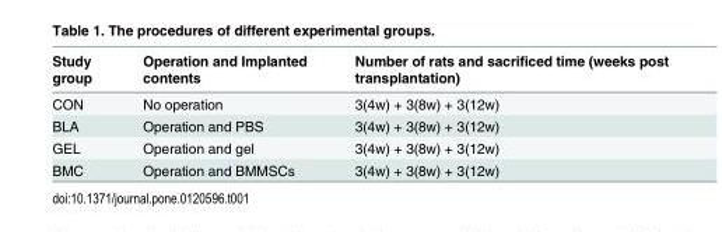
<table><thead><tr><td>Study group</td><td>Operation and Implanted contents</td><td>Number of rats and sacrificed time (weeks post transplantation)</td></tr></thead><tbody><tr><td>CON</td><td>No operation</td><td>3(4w) + 3(8w) + 3(12w)</td></tr><tr><td>BLA</td><td>Operation and PBS</td><td>3(4w) + 3(8w) + 3(12w)</td></tr><tr><td>GEL</td><td>Operation and gel</td><td>3(4w) + 3(8w) + 3(12w)</td></tr><tr><td>BMC</td><td>Operation and BMMSCs</td><td>3(4w) + 3(8w) + 3(12w)</td></tr></tbody></table>